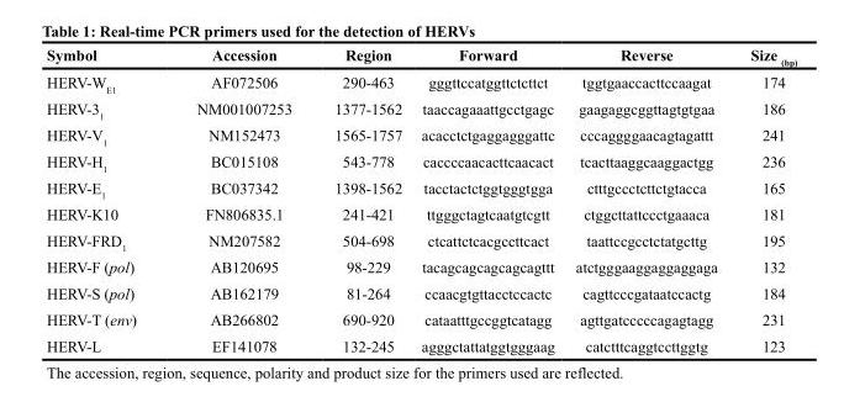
<table><thead><tr><td>Symbol</td><td>Accession</td><td>Region</td><td>Forward</td><td>Reverse</td><td>Size <sub>(bp)</sub></td></tr></thead><tbody><tr><td>HERV-W<sub>E1</sub></td><td>AF072506</td><td>290-463</td><td>gggttccatggttctcttct</td><td>tggtgaaccacttccaagat</td><td>174</td></tr><tr><td>HERV-3<sub>1</sub></td><td>NM001007253</td><td>1377-1562</td><td>taaccagaaattgcctgagc</td><td>gaagaggcggttagtgtgaa</td><td>186</td></tr><tr><td>HERV-V<sub>1</sub></td><td>NM152473</td><td>1565-1757</td><td>acacctctgaggagggattc</td><td>cccaggggaacagtagattt</td><td>241</td></tr><tr><td>HERV-H<sub>1</sub></td><td>BC015108</td><td>543-778</td><td>caccccaacacttcaacact</td><td>tcacttaaggcaaggactgg</td><td>236</td></tr><tr><td>HERV-E<sub>1</sub></td><td>BC037342</td><td>1398-1562</td><td>tacctactctggtgggtgga</td><td>ctttgccctcttctgtacca</td><td>165</td></tr><tr><td>HERV-K10</td><td>FN806835.1</td><td>241-421</td><td>ttgggctagtcaatgtcgtt</td><td>ctggcttattccctgaaaca</td><td>181</td></tr><tr><td>HERV-FRD<sub>1</sub></td><td>NM207582</td><td>504-698</td><td>ctcattctcacgccttcact</td><td>taattccgcctctatgcttg</td><td>195</td></tr><tr><td>HERV-F (pol)</td><td>AB120695</td><td>98-229</td><td>tacagcagcagcagcagttt</td><td>atctgggaaggaggaggaga</td><td>132</td></tr><tr><td>HERV-S (pol)</td><td>AB162179</td><td>81-264</td><td>ccaacgtgttacctccactc</td><td>cagttcccgataatccactg</td><td>184</td></tr><tr><td>HERV-T (env)</td><td>AB266802</td><td>690-920</td><td>cataatttgccggtcatagg</td><td>agttgatcccccagagtagg</td><td>231</td></tr><tr><td>HERV-L</td><td>EF141078</td><td>132-245</td><td>agggctattatggtgggaag</td><td>catctttcaggtccttggtg</td><td>123</td></tr></tbody></table>